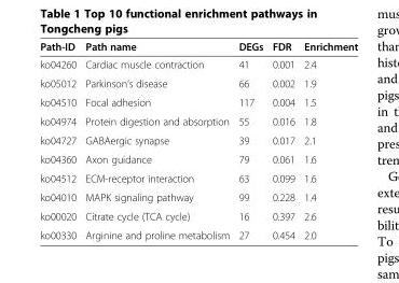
<table><thead><tr><td>Path-ID</td><td>Path name</td><td>DEGs</td><td>FDR</td><td>Enrichment</td></tr></thead><tbody><tr><td>ko04260</td><td>Cardiac muscle contraction</td><td>41</td><td>0.001</td><td>2.4</td></tr><tr><td>ko05012</td><td>Parkinson’s disease</td><td>66</td><td>0.002</td><td>1.9</td></tr><tr><td>ko04510</td><td>Focal adhesion</td><td>117</td><td>0.004</td><td>1.5</td></tr><tr><td>ko04974</td><td>Protein digestion and absorption</td><td>55</td><td>0.016</td><td>1.8</td></tr><tr><td>ko04727</td><td>GABAergic synapse</td><td>39</td><td>0.017</td><td>2.1</td></tr><tr><td>ko04360</td><td>Axon guidance</td><td>79</td><td>0.061</td><td>1.6</td></tr><tr><td>ko04512</td><td>ECM-receptor interaction</td><td>63</td><td>0.099</td><td>1.6</td></tr><tr><td>ko04010</td><td>MAPK signaling pathway</td><td>99</td><td>0.228</td><td>1.4</td></tr><tr><td>ko00020</td><td>Citrate cycle (TCA cycle)</td><td>16</td><td>0.397</td><td>2.6</td></tr><tr><td>ko00330</td><td>Arginine and proline metabolism</td><td>27</td><td>0.454</td><td>2.0</td></tr></tbody></table>